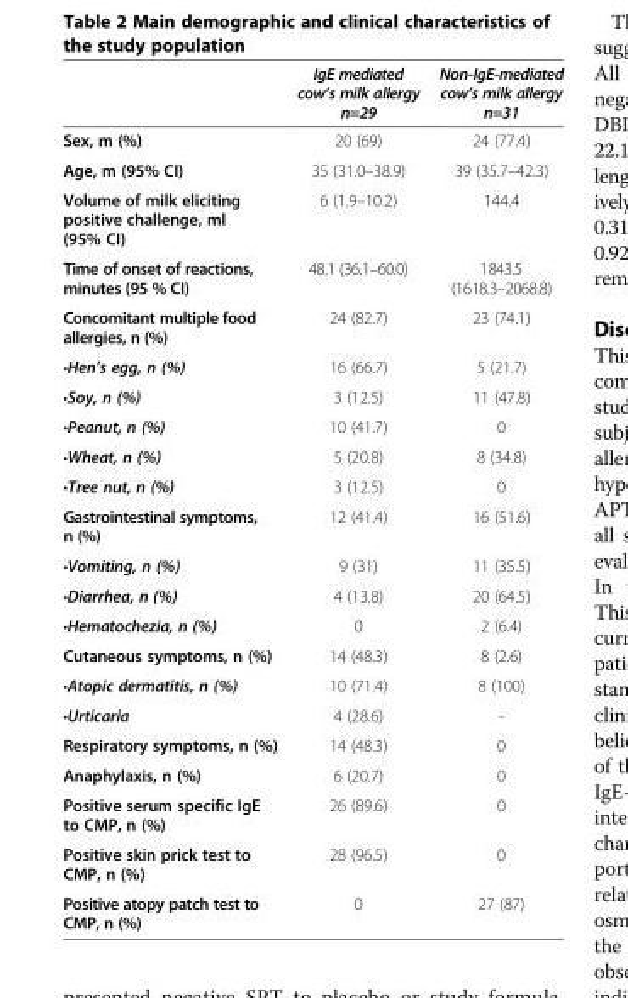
<table><thead><tr><td></td><td>IgE mediated cow’s milk allergy n=29</td><td>Non-IgE-mediated cow’s milk allergy n=31</td></tr></thead><tbody><tr><td>Sex, m (%)</td><td>20 (69)</td><td>24 (77.4)</td></tr><tr><td>Age, m (95% CI)</td><td>35 (31.0–38.9)</td><td>39 (35.7–42.3)</td></tr><tr><td>Volume of milk eliciting positive challenge, ml (95% CI)</td><td>6 (1.9–10.2)</td><td>144.4</td></tr><tr><td>Time of onset of reactions, minutes (95 % CI)</td><td>48.1 (36.1–60.0)</td><td>1843.5 (1618.3–2068.8)</td></tr><tr><td>Concomitant multiple food allergies, n (%)</td><td>24 (82.7)</td><td>23 (74.1)</td></tr><tr><td>•Hen’s egg, n (%)</td><td>16 (66.7)</td><td>5 (21.7)</td></tr><tr><td>•Soy, n (%)</td><td>3 (12.5)</td><td>11 (47.8)</td></tr><tr><td>•Peanut, n (%)</td><td>10 (41.7)</td><td>0</td></tr><tr><td>•Wheat, n (%)</td><td>5 (20.8)</td><td>8 (34.8)</td></tr><tr><td>•Tree nut, n (%)</td><td>3 (12.5)</td><td>0</td></tr><tr><td>Gastrointestinal symptoms, n (%)</td><td>12 (41.4)</td><td>16 (51.6)</td></tr><tr><td>•Vomiting, n (%)</td><td>9 (31)</td><td>11 (35.5)</td></tr><tr><td>•Diarrhea, n (%)</td><td>4 (13.8)</td><td>20 (64.5)</td></tr><tr><td>•Hematochezia, n (%)</td><td>0</td><td>2 (6.4)</td></tr><tr><td>Cutaneous symptoms, n (%)</td><td>14 (48.3)</td><td>8 (2.6)</td></tr><tr><td>•Atopic dermatitis, n (%)</td><td>10 (71.4)</td><td>8 (100)</td></tr><tr><td>•Urticaria</td><td>4 (28.6)</td><td>-</td></tr><tr><td>Respiratory symptoms, n (%)</td><td>14 (48.3)</td><td>0</td></tr><tr><td>Anaphylaxis, n (%)</td><td>6 (20.7)</td><td>0</td></tr><tr><td>Positive serum specific IgE to CMP, n (%)</td><td>26 (89.6)</td><td>0</td></tr><tr><td>Positive skin prick test to CMP, n (%)</td><td>28 (96.5)</td><td>0</td></tr><tr><td>Positive atopy patch test to CMP, n (%)</td><td>0</td><td>27 (87)</td></tr></tbody></table>